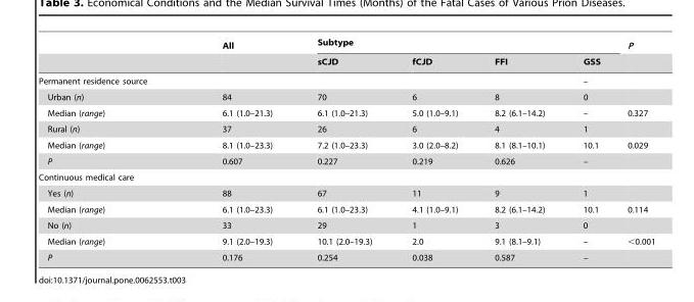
<table><thead><tr><td rowspan="2"></td><td rowspan="2">All</td><td colspan="4">Subtype</td><td rowspan="2">P</td></tr><tr><td>sCJD</td><td>fCJD</td><td>FFI</td><td>GSS</td></tr></thead><tbody><tr><td>Permanent residence source</td><td></td><td></td><td></td><td></td><td>–</td><td></td></tr><tr><td>Urban (n)</td><td>84</td><td>70</td><td>6</td><td>8</td><td>0</td><td></td></tr><tr><td>Median (range)</td><td>6.1 (1.0–21.3)</td><td>6.1 (1.0–21.3)</td><td>5.0 (1.0–9.1)</td><td>8.2 (6.1–14.2)</td><td>–</td><td>0.327</td></tr><tr><td>Rural (n)</td><td>37</td><td>26</td><td>6</td><td>4</td><td>1</td><td></td></tr><tr><td>Median (range)</td><td>8.1 (1.0–23.3)</td><td>7.2 (1.0–23.3)</td><td>3.0 (2.0–8.2)</td><td>8.1 (8.1–10.1)</td><td>10.1</td><td>0.029</td></tr><tr><td>P</td><td>0.607</td><td>0.227</td><td>0.219</td><td>0.626</td><td>–</td><td></td></tr><tr><td colspan="7">Continuous medical care</td></tr><tr><td>Yes (n)</td><td>88</td><td>67</td><td>11</td><td>9</td><td>1</td><td></td></tr><tr><td>Median (range)</td><td>6.1 (1.0–23.3)</td><td>6.1 (1.0–23.3)</td><td>4.1 (1.0–9.1)</td><td>8.2 (6.1–14.2)</td><td>10.1</td><td>0.114</td></tr><tr><td>No (n)</td><td>33</td><td>29</td><td>1</td><td>3</td><td>0</td><td></td></tr><tr><td>Median (range)</td><td>9.1 (2.0–19.3)</td><td>10.1 (2.0–19.3)</td><td>2.0</td><td>9.1 (8.1–9.1)</td><td>–</td><td>&lt;0.001</td></tr><tr><td>P</td><td>0.176</td><td>0.254</td><td>0.038</td><td>0.587</td><td>–</td><td></td></tr></tbody></table>